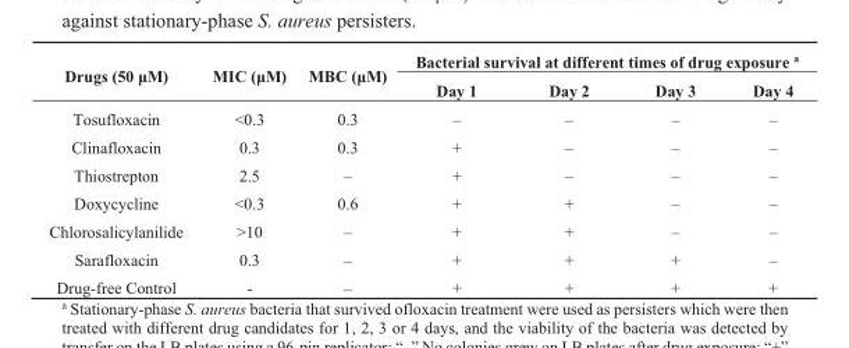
<table><thead><tr><td rowspan="2">Drugs (50 μM)</td><td rowspan="2">MIC (μM)</td><td rowspan="2">MBC (μM)</td><td colspan="4">Bacterial survival at different times of drug exposure <sup>a</sup></td></tr><tr><td>Day 1</td><td>Day 2</td><td>Day 3</td><td>Day 4</td></tr></thead><tbody><tr><td>Tosufloxacin</td><td>&lt;0.3</td><td>0.3</td><td>–</td><td>–</td><td>–</td><td>–</td></tr><tr><td>Clinafloxacin</td><td>0.3</td><td>0.3</td><td>+</td><td>–</td><td>–</td><td>–</td></tr><tr><td>Thiostrepton</td><td>2.5</td><td>–</td><td>+</td><td>–</td><td>–</td><td>–</td></tr><tr><td>Doxycycline</td><td>&lt;0.3</td><td>0.6</td><td>+</td><td>+</td><td>–</td><td>–</td></tr><tr><td>Chlorosalicylanilide</td><td>&gt;10</td><td>–</td><td>+</td><td>+</td><td>–</td><td>–</td></tr><tr><td>Sarafloxacin</td><td>0.3</td><td>–</td><td>+</td><td>+</td><td>+</td><td>–</td></tr><tr><td>Drug-free Control</td><td>-</td><td>–</td><td>+</td><td>+</td><td>+</td><td>+</td></tr></tbody></table>